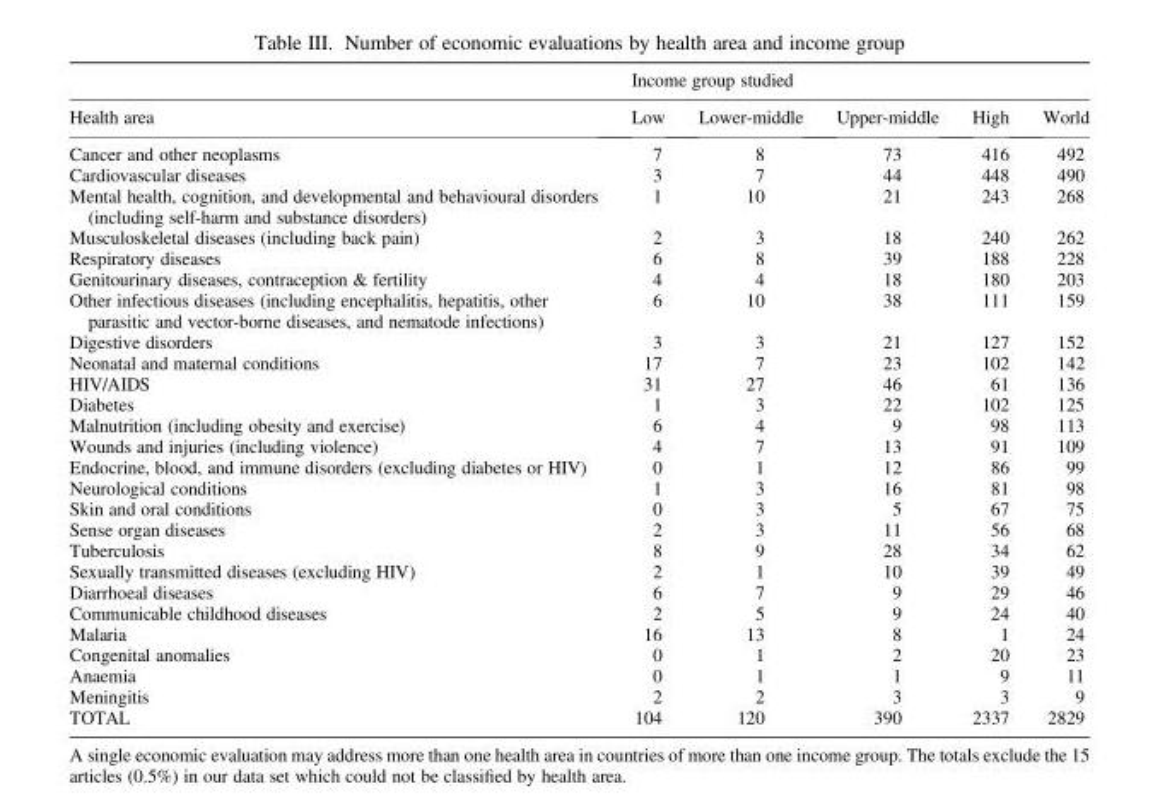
<table><thead><tr><td rowspan="2">Health area</td><td colspan="5">Income group studied</td></tr><tr><td>Low</td><td>Lower-middle</td><td>Upper-middle</td><td>High</td><td>World</td></tr></thead><tbody><tr><td>Cancer and other neoplasms</td><td>7</td><td>8</td><td>73</td><td>416</td><td>492</td></tr><tr><td>Cardiovascular diseases</td><td>3</td><td>7</td><td>44</td><td>448</td><td>490</td></tr><tr><td>Mental health, cognition, and developmental and behavioural disorders (including self-harm and substance disorders)</td><td>1</td><td>10</td><td>21</td><td>243</td><td>268</td></tr><tr><td>Musculoskeletal diseases (including back pain)</td><td>2</td><td>3</td><td>18</td><td>240</td><td>262</td></tr><tr><td>Respiratory diseases</td><td>6</td><td>8</td><td>39</td><td>188</td><td>228</td></tr><tr><td>Genitourinary diseases, contraception &amp; fertility</td><td>4</td><td>4</td><td>18</td><td>180</td><td>203</td></tr><tr><td>Other infectious diseases (including encephalitis, hepatitis, other parasitic and vector-borne diseases, and nematode infections)</td><td>6</td><td>10</td><td>38</td><td>111</td><td>159</td></tr><tr><td>Digestive disorders</td><td>3</td><td>3</td><td>21</td><td>127</td><td>152</td></tr><tr><td>Neonatal and maternal conditions</td><td>17</td><td>7</td><td>23</td><td>102</td><td>142</td></tr><tr><td>HIV/AIDS</td><td>31</td><td>27</td><td>46</td><td>61</td><td>136</td></tr><tr><td>Diabetes</td><td>1</td><td>3</td><td>22</td><td>102</td><td>125</td></tr><tr><td>Malnutrition (including obesity and exercise)</td><td>6</td><td>4</td><td>9</td><td>98</td><td>113</td></tr><tr><td>Wounds and injuries (including violence)</td><td>4</td><td>7</td><td>13</td><td>91</td><td>109</td></tr><tr><td>Endocrine, blood, and immune disorders (excluding diabetes or HIV)</td><td>0</td><td>1</td><td>12</td><td>86</td><td>99</td></tr><tr><td>Neurological conditions</td><td>1</td><td>3</td><td>16</td><td>81</td><td>98</td></tr><tr><td>Skin and oral conditions</td><td>0</td><td>3</td><td>5</td><td>67</td><td>75</td></tr><tr><td>Sense organ diseases</td><td>2</td><td>3</td><td>11</td><td>56</td><td>68</td></tr><tr><td>Tuberculosis</td><td>8</td><td>9</td><td>28</td><td>34</td><td>62</td></tr><tr><td>Sexually transmitted diseases (excluding HIV)</td><td>2</td><td>1</td><td>10</td><td>39</td><td>49</td></tr><tr><td>Diarrhoeal diseases</td><td>6</td><td>7</td><td>9</td><td>29</td><td>46</td></tr><tr><td>Communicable childhood diseases</td><td>2</td><td>5</td><td>9</td><td>24</td><td>40</td></tr><tr><td>Malaria</td><td>16</td><td>13</td><td>8</td><td>1</td><td>24</td></tr><tr><td>Congenital anomalies</td><td>0</td><td>1</td><td>2</td><td>20</td><td>23</td></tr><tr><td>Anaemia</td><td>0</td><td>1</td><td>1</td><td>9</td><td>11</td></tr><tr><td>Meningitis</td><td>2</td><td>2</td><td>3</td><td>3</td><td>9</td></tr><tr><td>TOTAL</td><td>104</td><td>120</td><td>390</td><td>2337</td><td>2829</td></tr></tbody></table>